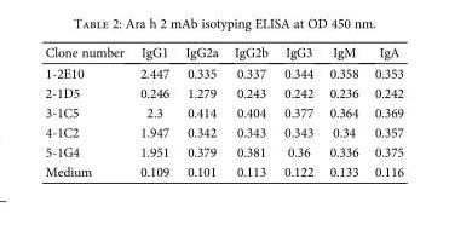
<table><thead><tr><td>Clone number</td><td>IgG1</td><td>IgG2a</td><td>IgG2b</td><td>IgG3</td><td>IgM</td><td>IgA</td></tr></thead><tbody><tr><td>1-2E10</td><td>2.447</td><td>0.335</td><td>0.337</td><td>0.344</td><td>0.358</td><td>0.353</td></tr><tr><td>2-1D5</td><td>0.246</td><td>1.279</td><td>0.243</td><td>0.242</td><td>0.236</td><td>0.242</td></tr><tr><td>3-1C5</td><td>2.3</td><td>0.414</td><td>0.404</td><td>0.377</td><td>0.364</td><td>0.369</td></tr><tr><td>4-1C2</td><td>1.947</td><td>0.342</td><td>0.343</td><td>0.343</td><td>0.34</td><td>0.357</td></tr><tr><td>5-1G4</td><td>1.951</td><td>0.379</td><td>0.381</td><td>0.36</td><td>0.336</td><td>0.375</td></tr><tr><td>Medium</td><td>0.109</td><td>0.101</td><td>0.113</td><td>0.122</td><td>0.133</td><td>0.116</td></tr></tbody></table>